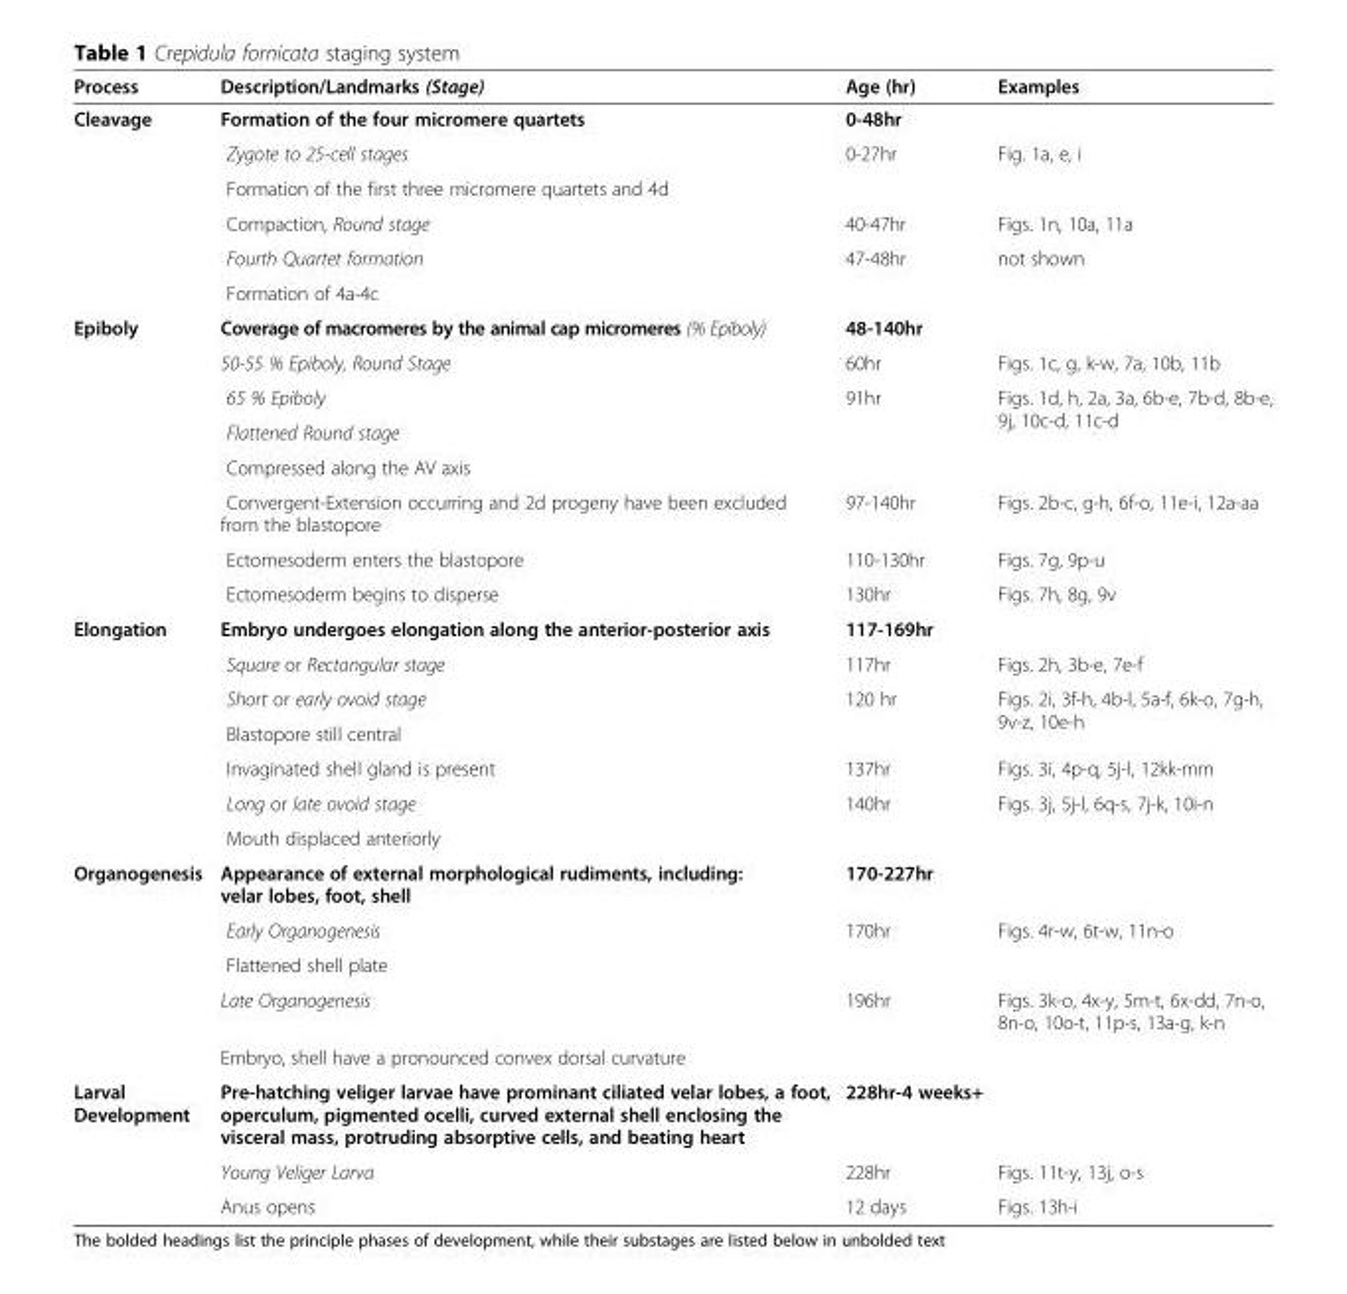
<table><thead><tr><td>Process</td><td>Description/Landmarks (Stage)</td><td>Age (hr)</td><td>Examples</td></tr></thead><tbody><tr><td rowspan="6">Cleavage</td><td>Formation of the four micromere quartets</td><td>0-48hr</td><td></td></tr><tr><td>Zygote to 25-cell stages</td><td>0-27hr</td><td>Fig. 1a, e, i</td></tr><tr><td>Formation of the first three micromere quartets and 4d</td><td></td><td></td></tr><tr><td>Compaction, Round stage</td><td>40-47hr</td><td>Figs. 1n, 10a, 11a</td></tr><tr><td>Fourth Quartet formation</td><td>47-48hr</td><td>not shown</td></tr><tr><td>Formation of 4a-4c</td><td></td><td></td></tr><tr><td rowspan="8">Epiboly</td><td>Coverage of macromeres by the animal cap micromeres (% Epiboly)</td><td>48-140hr</td><td></td></tr><tr><td>50-55 % Epiboly, Round Stage</td><td>60hr</td><td>Figs. 1c, g, k-w, 7a, 10b, 11b</td></tr><tr><td>65 % Epiboly</td><td>91hr</td><td rowspan="2">Figs. 1d, h, 2a, 3a, 6b-e, 7b-d, 8b-e, 9j, 10c-d, 11c-d</td></tr><tr><td>Flattened Round stage</td><td></td></tr><tr><td>Compressed along the AV axis</td><td></td><td></td></tr><tr><td>Convergent-Extension occurring and 2d progeny have been excluded from the blastopore</td><td>97-140hr</td><td>Figs. 2b-c, g-h, 6f-o, 11e-i, 12a-aa</td></tr><tr><td>Ectomesoderm enters the blastopore</td><td>110-130hr</td><td>Figs. 7g, 9p-u</td></tr><tr><td>Ectomesoderm begins to disperse</td><td>130hr</td><td>Figs. 7h, 8g, 9v</td></tr><tr><td rowspan="7">Elongation</td><td>Embryo undergoes elongation along the anterior-posterior axis</td><td>117-169hr</td><td></td></tr><tr><td>Square or Rectangular stage</td><td>117hr</td><td>Figs. 2h, 3b-e, 7e-f</td></tr><tr><td>Short or early ovoid stage</td><td>120 hr</td><td rowspan="2">Figs. 2i, 3f-h, 4b-l, 5a-f, 6k-o, 7g-h, 9v-z, 10e-h</td></tr><tr><td>Blastopore still central</td><td></td></tr><tr><td>Invaginated shell gland is present</td><td>137hr</td><td>Figs. 3i, 4p-q, 5j-l, 12kk-mm</td></tr><tr><td>Long or late ovoid stage</td><td>140hr</td><td>Figs. 3j, 5j-l, 6q-s, 7j-k, 10i-n</td></tr><tr><td>Mouth displaced anteriorly</td><td></td><td></td></tr><tr><td rowspan="5">Organogenesis</td><td>Appearance of external morphological rudiments, including: velar lobes, foot, shell</td><td>170-227hr</td><td></td></tr><tr><td>Early Organogenesis</td><td>170hr</td><td>Figs. 4r-w, 6t-w, 11n-o</td></tr><tr><td>Flattened shell plate</td><td></td><td></td></tr><tr><td>Late Organogenesis</td><td>196hr</td><td>Figs. 3k-o, 4x-y, 5m-t, 6x-dd, 7n-o, 8n-o, 10o-t, 11p-s, 13a-g, k-n</td></tr><tr><td>Embryo, shell have a pronounced convex dorsal curvature</td><td></td><td></td></tr><tr><td rowspan="3">Larval Development</td><td>Pre-hatching veliger larvae have prominant ciliated velar lobes, a foot, operculum, pigmented ocelli, curved external shell enclosing the visceral mass, protruding absorptive cells, and beating heart</td><td>228hr-4 weeks+</td><td></td></tr><tr><td>Young Veliger Larva</td><td>228hr</td><td>Figs. 11t-y, 13j, o-s</td></tr><tr><td>Anus opens</td><td>12 days</td><td>Figs. 13h-i</td></tr></tbody></table>